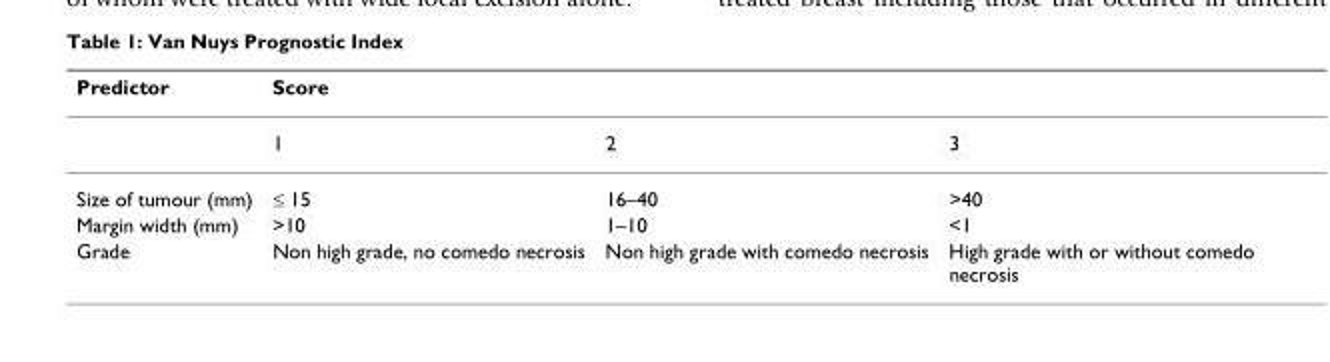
<table><thead><tr><td rowspan="2">Predictor</td><td colspan="3">Score</td></tr><tr><td>1</td><td>2</td><td>3</td></tr></thead><tbody><tr><td>Size of tumour (mm)</td><td>≤ 15</td><td>16–40</td><td>&gt;40</td></tr><tr><td>Margin width (mm)</td><td>&gt;10</td><td>1–10</td><td>&lt;1</td></tr><tr><td>Grade</td><td>Non high grade, no comedo necrosis</td><td>Non high grade with comedo necrosis</td><td>High grade with or without comedo necrosis</td></tr></tbody></table>